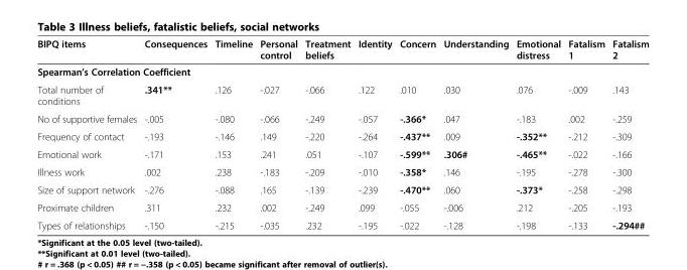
<table><thead><tr><td>BIPQ items</td><td>Consequences</td><td>Timeline</td><td>Personal control</td><td>Treatment beliefs</td><td>Identity</td><td>Concern</td><td>Understanding</td><td>Emotional distress</td><td>Fatalism 1</td><td>Fatalism 2</td></tr></thead><tbody><tr><td colspan="11">Spearman’s Correlation Coefficient</td></tr><tr><td>Total number of conditions</td><td>.341**</td><td>.126</td><td>-.027</td><td>-.066</td><td>.122</td><td>.010</td><td>.030</td><td>.076</td><td>-.009</td><td>.143</td></tr><tr><td>No of supportive females</td><td>-.005</td><td>-.080</td><td>-.066</td><td>-.249</td><td>-.057</td><td>-.366*</td><td>.047</td><td>-.183</td><td>.002</td><td>-.259</td></tr><tr><td>Frequency of contact</td><td>-.193</td><td>-.146</td><td>.149</td><td>-.220</td><td>-.264</td><td>-.437**</td><td>.009</td><td>-.352**</td><td>-.212</td><td>-.309</td></tr><tr><td>Emotional work</td><td>-.171</td><td>.153</td><td>.241</td><td>.051</td><td>-.107</td><td>-.599**</td><td>.306#</td><td>-.465**</td><td>-.022</td><td>-.166</td></tr><tr><td>Illness work</td><td>.002</td><td>.238</td><td>-.183</td><td>-.209</td><td>-.010</td><td>-.358*</td><td>.146</td><td>-.195</td><td>-.278</td><td>-.300</td></tr><tr><td>Size of support network</td><td>-.276</td><td>-.088</td><td>.165</td><td>-.139</td><td>-.239</td><td>-.470**</td><td>.060</td><td>-.373*</td><td>-.258</td><td>-.298</td></tr><tr><td>Proximate children</td><td>.311</td><td>.232</td><td>.002</td><td>-.249</td><td>.099</td><td>-.055</td><td>-.006</td><td>.212</td><td>-.205</td><td>-.193</td></tr><tr><td>Types of relationships</td><td>-.150</td><td>-.215</td><td>-.035</td><td>.232</td><td>-.195</td><td>-.022</td><td>-.128</td><td>-.198</td><td>-.133</td><td>-.294##</td></tr></tbody></table>